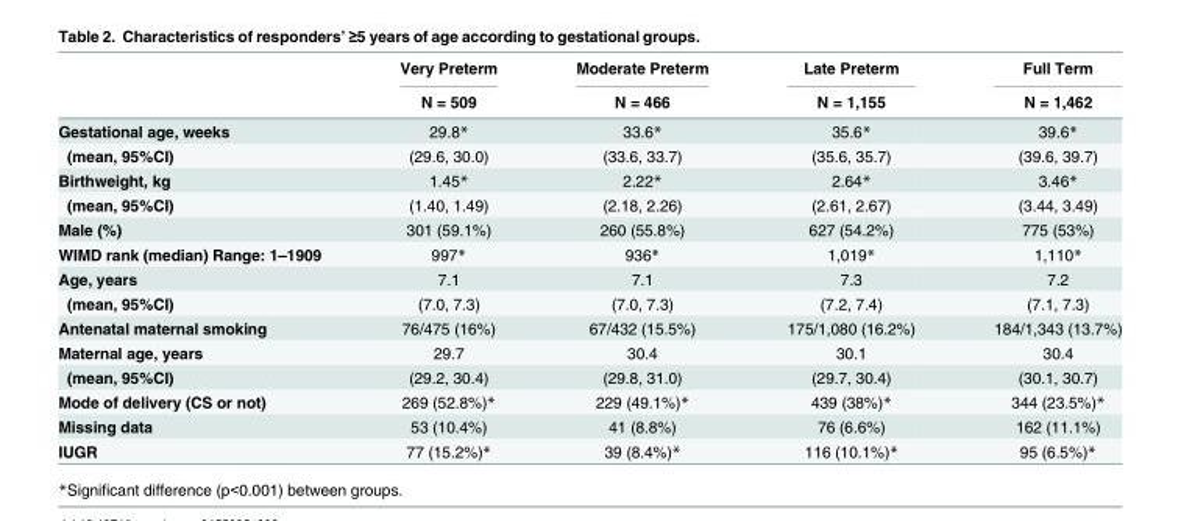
<table><thead><tr><td rowspan="2"></td><td rowspan="2">Very Preterm N = 509</td><td rowspan="2">Moderate Preterm N = 466</td><td rowspan="2">Late Preterm N = 1,155</td><td rowspan="2">Full Term N = 1,462</td></tr><tr></tr></thead><tbody><tr><td>Gestational age, weeks</td><td>29.8*</td><td>33.6*</td><td>35.6*</td><td>39.6*</td></tr><tr><td>(mean, 95%CI)</td><td>(29.6, 30.0)</td><td>(33.6, 33.7)</td><td>(35.6, 35.7)</td><td>(39.6, 39.7)</td></tr><tr><td>Birthweight, kg</td><td>1.45*</td><td>2.22*</td><td>2.64*</td><td>3.46*</td></tr><tr><td>(mean, 95%CI)</td><td>(1.40, 1.49)</td><td>(2.18, 2.26)</td><td>(2.61, 2.67)</td><td>(3.44, 3.49)</td></tr><tr><td>Male (%)</td><td>301 (59.1%)</td><td>260 (55.8%)</td><td>627 (54.2%)</td><td>775 (53%)</td></tr><tr><td>WIMD rank (median) Range: 1–1909</td><td>997*</td><td>936*</td><td>1,019*</td><td>1,110*</td></tr><tr><td>Age, years</td><td>7.1</td><td>7.1</td><td>7.3</td><td>7.2</td></tr><tr><td>(mean, 95%CI)</td><td>(7.0, 7.3)</td><td>(7.0, 7.3)</td><td>(7.2, 7.4)</td><td>(7.1, 7.3)</td></tr><tr><td>Antenatal maternal smoking</td><td>76/475 (16%)</td><td>67/432 (15.5%)</td><td>175/1,080 (16.2%)</td><td>184/1,343 (13.7%)</td></tr><tr><td>Maternal age, years</td><td>29.7</td><td>30.4</td><td>30.1</td><td>30.4</td></tr><tr><td>(mean, 95%CI)</td><td>(29.2, 30.4)</td><td>(29.8, 31.0)</td><td>(29.7, 30.4)</td><td>(30.1, 30.7)</td></tr><tr><td>Mode of delivery (CS or not)</td><td>269 (52.8%)*</td><td>229 (49.1%)*</td><td>439 (38%)*</td><td>344 (23.5%)*</td></tr><tr><td>Missing data</td><td>53 (10.4%)</td><td>41 (8.8%)</td><td>76 (6.6%)</td><td>162 (11.1%)</td></tr><tr><td>IUGR</td><td>77 (15.2%)*</td><td>39 (8.4%)*</td><td>116 (10.1%)*</td><td>95 (6.5%)*</td></tr></tbody></table>